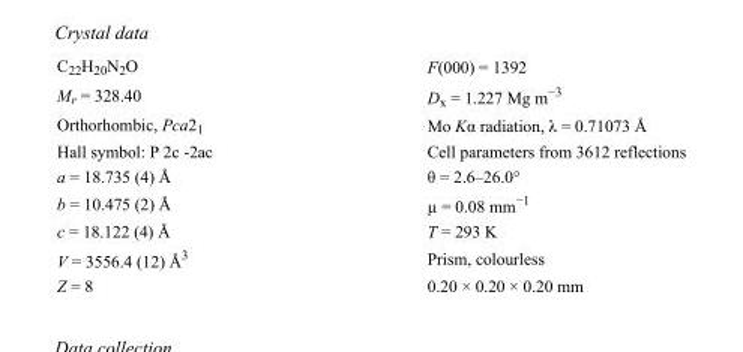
<table><tbody><tr><td>C<sub>22</sub>H<sub>20</sub>N<sub>2</sub>O</td><td>F(000) = 1392</td></tr><tr><td>M<sub>r</sub> = 328.40</td><td>D<sub>x</sub> = 1.227 Mg m<sup>−3</sup></td></tr><tr><td>Orthorhombic, Pca2<sub>1</sub></td><td>Mo Kα radiation, λ = 0.71073 Å</td></tr><tr><td>Hall symbol: P 2c -2ac</td><td>Cell parameters from 3612 reflections</td></tr><tr><td>a = 18.735 (4) Å</td><td>θ = 2.6–26.0°</td></tr><tr><td>b = 10.475 (2) Å</td><td>µ = 0.08 mm<sup>−1</sup></td></tr><tr><td>c = 18.122 (4) Å</td><td>T = 293 K</td></tr><tr><td>V = 3556.4 (12) Å<sup>3</sup></td><td>Prism, colourless</td></tr><tr><td>Z = 8</td><td>0.20 × 0.20 × 0.20 mm</td></tr></tbody></table>